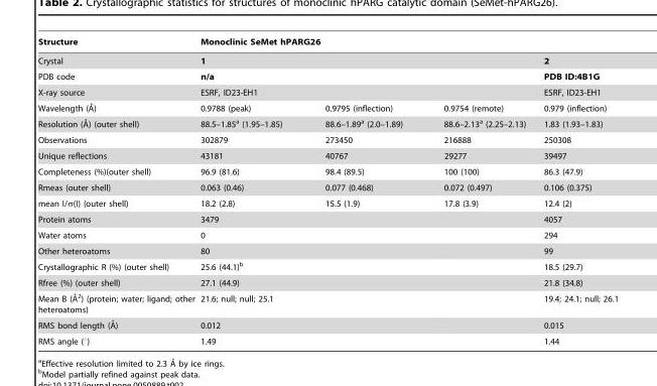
<table><thead><tr><td>Structure</td><td colspan="4">Monoclinic SeMet hPARG26</td></tr></thead><tbody><tr><td>Crystal</td><td colspan="3">1</td><td>2</td></tr><tr><td>PDB code</td><td colspan="3">n/a</td><td>PDB ID:4B1G</td></tr><tr><td>X-ray source</td><td colspan="3">ESRF, ID23-EH1</td><td>ESRF, ID23-EH1</td></tr><tr><td>Wavelength (A˚)</td><td>0.9788 (peak)</td><td>0.9795 (inflection)</td><td>0.9754 (remote)</td><td>0.979 (inflection)</td></tr><tr><td>Resolution (A˚) (outer shell)</td><td>88.5–1.85<sup>a</sup> (1.95–1.85)</td><td>88.6–1.89<sup>a</sup> (2.0–1.89)</td><td>88.6–2.13<sup>a</sup> (2.25–2.13)</td><td>1.83 (1.93–1.83)</td></tr><tr><td>Observations</td><td>302879</td><td>273450</td><td>216888</td><td>250308</td></tr><tr><td>Unique reflections</td><td>43181</td><td>40767</td><td>29277</td><td>39497</td></tr><tr><td>Completeness (%)(outer shell)</td><td>96.9 (81.6)</td><td>98.4 (89.5)</td><td>100 (100)</td><td>86.3 (47.9)</td></tr><tr><td>Rmeas (outer shell)</td><td>0.063 (0.46)</td><td>0.077 (0.468)</td><td>0.072 (0.497)</td><td>0.106 (0.375)</td></tr><tr><td>mean I/σ(I) (outer shell)</td><td>18.2 (2.8)</td><td>15.5 (1.9)</td><td>17.8 (3.9)</td><td>12.4 (2)</td></tr><tr><td>Protein atoms</td><td>3479</td><td></td><td></td><td>4057</td></tr><tr><td>Water atoms</td><td>0</td><td></td><td></td><td>294</td></tr><tr><td>Other heteroatoms</td><td>80</td><td></td><td></td><td>99</td></tr><tr><td>Crystallographic R (%) (outer shell)</td><td>25.6 (44.1)<sup>b</sup></td><td></td><td></td><td>18.5 (29.7)</td></tr><tr><td>Rfree (%) (outer shell)</td><td>27.1 (44.9)</td><td></td><td></td><td>21.8 (34.8)</td></tr><tr><td>Mean B (A˚2) (protein; water; ligand; other heteroatoms)</td><td>21.6; null; null; 25.1</td><td></td><td></td><td>19.4; 24.1; null; 26.1</td></tr><tr><td>RMS bond length (A˚)</td><td>0.012</td><td></td><td></td><td>0.015</td></tr><tr><td>RMS angle (°)</td><td>1.49</td><td></td><td></td><td>1.44</td></tr></tbody></table>